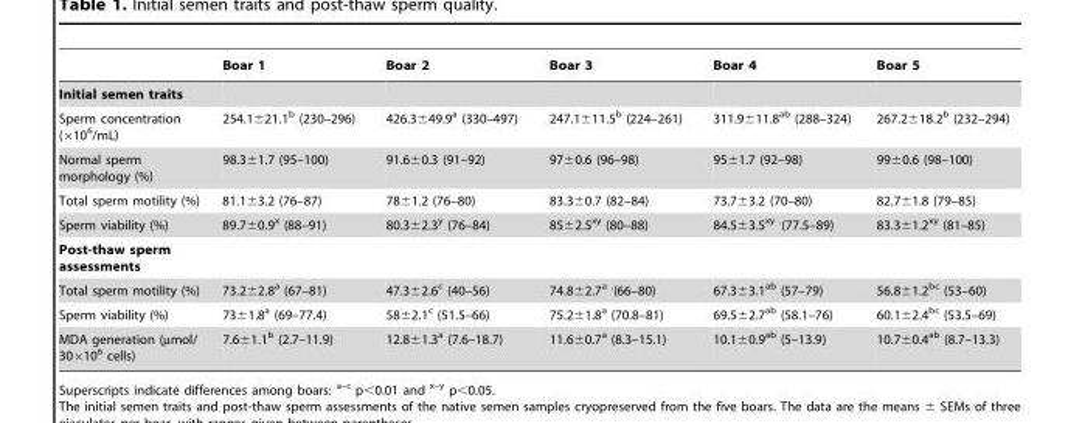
<table><thead><tr><td></td><td>Boar 1</td><td>Boar 2</td><td>Boar 3</td><td>Boar 4</td><td>Boar 5</td></tr></thead><tbody><tr><td colspan="6">Initial semen traits</td></tr><tr><td>Sperm concentration (×10<sup>6</sup>/mL)</td><td>254.1±21.1<sup>b</sup> (230–296)</td><td>426.3±49.9<sup>a</sup> (330–497)</td><td>247.1±11.5<sup>b</sup> (224–261)</td><td>311.9±11.8<sup>ab</sup> (288–324)</td><td>267.2±18.2<sup>b</sup> (232–294)</td></tr><tr><td>Normal sperm morphology (%)</td><td>98.3±1.7 (95–100)</td><td>91.6±0.3 (91–92)</td><td>97±0.6 (96–98)</td><td>95±1.7 (92–98)</td><td>99±0.6 (98–100)</td></tr><tr><td>Total sperm motility (%)</td><td>81.1±3.2 (76–87)</td><td>78±1.2 (76–80)</td><td>83.3±0.7 (82–84)</td><td>73.7±3.2 (70–80)</td><td>82.7±1.8 (79–85)</td></tr><tr><td>Sperm viability (%)</td><td>89.7±0.9<sup>x</sup> (88–91)</td><td>80.3±2.3<sup>y</sup> (76–84)</td><td>85±2.5<sup>xy</sup> (80–88)</td><td>84.5±3.5<sup>xy .</sup>(77.5–89)</td><td>83.3±1.2<sup>xy</sup> (81–85)</td></tr><tr><td colspan="6">Post-thaw sperm assessments</td></tr><tr><td>Total sperm motility (%)</td><td>73.2±2.8<sup>a</sup> (67–81)</td><td>47.3±2.6<sup>c</sup> (40–56)</td><td>74.8±2.7<sup>a .</sup>(66–80)</td><td>67.3±3.1<sup>ab</sup> (57–79)</td><td>56.8±1.2<sup>bc</sup> (53–60)</td></tr><tr><td>Sperm viability (%)</td><td>73±1.8<sup>a</sup> (69–77.4)</td><td>58±2.1<sup>c</sup> (51.5–66)</td><td>75.2±1.8<sup>a</sup> (70.8–81)</td><td>69.5±2.7<sup>ab</sup> (58.1–76)</td><td>60.1±2.4<sup>bc</sup> (53.5–69)</td></tr><tr><td>MDA generation (µmol/ 30×10<sup>6</sup> cells)</td><td>7.6±1.1<sup>b</sup> (2.7–11.9)</td><td>12.8±1.3<sup>a</sup> (7.6–18.7)</td><td>11.6±0.7<sup>a</sup> (8.3–15.1)</td><td>10.1±0.9<sup>ab</sup> (5–13.9)</td><td>10.7±0.4<sup>ab</sup> (8.7–13.3)</td></tr></tbody></table>